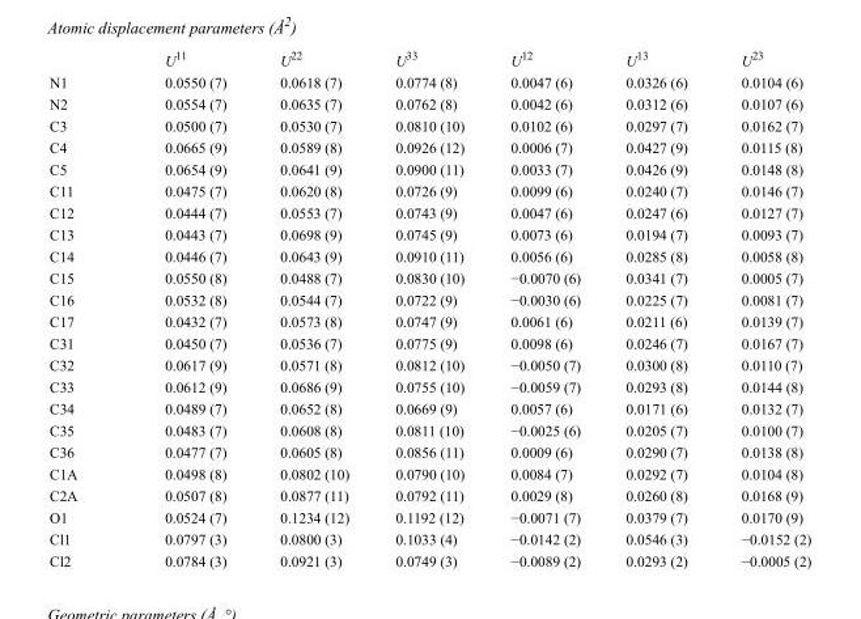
<table><thead><tr><td></td><td>U<sup>11</sup></td><td>U<sup>22</sup></td><td>U<sup>33</sup></td><td>U<sup>12</sup></td><td>U<sup>13</sup></td><td>U<sup>23</sup></td></tr></thead><tbody><tr><td>N1</td><td>0.0550 (7)</td><td>0.0618 (7)</td><td>0.0774 (8)</td><td>0.0047 (6)</td><td>0.0326 (6)</td><td>0.0104 (6)</td></tr><tr><td>N2</td><td>0.0554 (7)</td><td>0.0635 (7)</td><td>0.0762 (8)</td><td>0.0042 (6)</td><td>0.0312 (6)</td><td>0.0107 (6)</td></tr><tr><td>C3</td><td>0.0500 (7)</td><td>0.0530 (7)</td><td>0.0810 (10)</td><td>0.0102 (6)</td><td>0.0297 (7)</td><td>0.0162 (7)</td></tr><tr><td>C4</td><td>0.0665 (9)</td><td>0.0589 (8)</td><td>0.0926 (12)</td><td>0.0006 (7)</td><td>0.0427 (9)</td><td>0.0115 (8)</td></tr><tr><td>C5</td><td>0.0654 (9)</td><td>0.0641 (9)</td><td>0.0900 (11)</td><td>0.0033 (7)</td><td>0.0426 (9)</td><td>0.0148 (8)</td></tr><tr><td>C11</td><td>0.0475 (7)</td><td>0.0620 (8)</td><td>0.0726 (9)</td><td>0.0099 (6)</td><td>0.0240 (7)</td><td>0.0146 (7)</td></tr><tr><td>C12</td><td>0.0444 (7)</td><td>0.0553 (7)</td><td>0.0743 (9)</td><td>0.0047 (6)</td><td>0.0247 (6)</td><td>0.0127 (7)</td></tr><tr><td>C13</td><td>0.0443 (7)</td><td>0.0698 (9)</td><td>0.0745 (9)</td><td>0.0073 (6)</td><td>0.0194 (7)</td><td>0.0093 (7)</td></tr><tr><td>C14</td><td>0.0446 (7)</td><td>0.0643 (9)</td><td>0.0910 (11)</td><td>0.0056 (6)</td><td>0.0285 (8)</td><td>0.0058 (8)</td></tr><tr><td>C15</td><td>0.0550 (8)</td><td>0.0488 (7)</td><td>0.0830 (10)</td><td>−0.0070 (6)</td><td>0.0341 (7)</td><td>0.0005 (7)</td></tr><tr><td>C16</td><td>0.0532 (8)</td><td>0.0544 (7)</td><td>0.0722 (9)</td><td>−0.0030 (6)</td><td>0.0225 (7)</td><td>0.0081 (7)</td></tr><tr><td>C17</td><td>0.0432 (7)</td><td>0.0573 (8)</td><td>0.0747 (9)</td><td>0.0061 (6)</td><td>0.0211 (6)</td><td>0.0139 (7)</td></tr><tr><td>C31</td><td>0.0450 (7)</td><td>0.0536 (7)</td><td>0.0775 (9)</td><td>0.0098 (6)</td><td>0.0246 (7)</td><td>0.0167 (7)</td></tr><tr><td>C32</td><td>0.0617 (9)</td><td>0.0571 (8)</td><td>0.0812 (10)</td><td>−0.0050 (7)</td><td>0.0300 (8)</td><td>0.0110 (7)</td></tr><tr><td>C33</td><td>0.0612 (9)</td><td>0.0686 (9)</td><td>0.0755 (10)</td><td>−0.0059 (7)</td><td>0.0293 (8)</td><td>0.0144 (8)</td></tr><tr><td>C34</td><td>0.0489 (7)</td><td>0.0652 (8)</td><td>0.0669 (9)</td><td>0.0057 (6)</td><td>0.0171 (6)</td><td>0.0132 (7)</td></tr><tr><td>C35</td><td>0.0483 (7)</td><td>0.0608 (8)</td><td>0.0811 (10)</td><td>−0.0025 (6)</td><td>0.0205 (7)</td><td>0.0100 (7)</td></tr><tr><td>C36</td><td>0.0477 (7)</td><td>0.0605 (8)</td><td>0.0856 (11)</td><td>0.0009 (6)</td><td>0.0290 (7)</td><td>0.0138 (8)</td></tr><tr><td>C1A</td><td>0.0498 (8)</td><td>0.0802 (10)</td><td>0.0790 (10)</td><td>0.0084 (7)</td><td>0.0292 (7)</td><td>0.0104 (8)</td></tr><tr><td>C2A</td><td>0.0507 (8)</td><td>0.0877 (11)</td><td>0.0792 (11)</td><td>0.0029 (8)</td><td>0.0260 (8)</td><td>0.0168 (9)</td></tr><tr><td>O1</td><td>0.0524 (7)</td><td>0.1234 (12)</td><td>0.1192 (12)</td><td>−0.0071 (7)</td><td>0.0379 (7)</td><td>0.0170 (9)</td></tr><tr><td>Cl1</td><td>0.0797 (3)</td><td>0.0800 (3)</td><td>0.1033 (4)</td><td>−0.0142 (2)</td><td>0.0546 (3)</td><td>−0.0152 (2)</td></tr><tr><td>Cl2</td><td>0.0784 (3)</td><td>0.0921 (3)</td><td>0.0749 (3)</td><td>−0.0089 (2)</td><td>0.0293 (2)</td><td>−0.0005 (2)</td></tr></tbody></table>